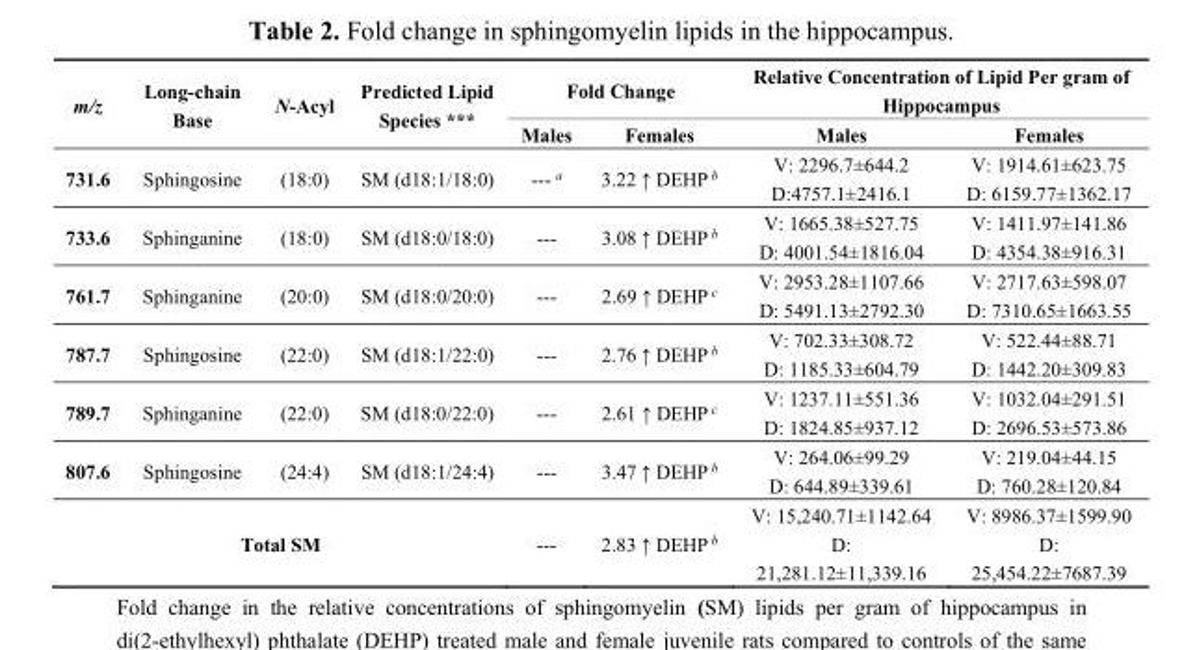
<table><thead><tr><td rowspan="2">m/z</td><td rowspan="2">Long-chain Base</td><td rowspan="2">N-Acyl</td><td rowspan="2">Predicted Lipid Species ***</td><td colspan="2">Fold Change</td><td colspan="2">Relative Concentration of Lipid Per gram of Hippocampus</td></tr><tr><td>Males</td><td>Females</td><td>Males</td><td>Females</td></tr></thead><tbody><tr><td>731.6</td><td>Sphingosine</td><td>(18:0)</td><td>SM (d18:1/18:0)</td><td>--- <sup>a</sup></td><td>3.22 ↑ DEHP <sup>b</sup></td><td>V: 2296.7±644.2 D:4757.1±2416.1</td><td>V: 1914.61±623.75 D: 6159.77±1362.17</td></tr><tr><td>733.6</td><td>Sphinganine</td><td>(18:0)</td><td>SM (d18:0/18:0)</td><td>---</td><td>3.08 ↑ DEHP <sup>b</sup></td><td>V: 1665.38±527.75 D: 4001.54±1816.04</td><td>V: 1411.97±141.86 D: 4354.38±916.31</td></tr><tr><td>761.7</td><td>Sphinganine</td><td>(20:0)</td><td>SM (d18:0/20:0)</td><td>---</td><td>2.69 ↑ DEHP <sup>c</sup></td><td>V: 2953.28±1107.66 D: 5491.13±2792.30</td><td>V: 2717.63±598.07 D: 7310.65±1663.55</td></tr><tr><td>787.7</td><td>Sphingosine</td><td>(22:0)</td><td>SM (d18:1/22:0)</td><td>---</td><td>2.76 ↑ DEHP <sup>b</sup></td><td>V: 702.33±308.72 D: 1185.33±604.79</td><td>V: 522.44±88.71 D: 1442.20±309.83</td></tr><tr><td>789.7</td><td>Sphinganine</td><td>(22:0)</td><td>SM (d18:0/22:0)</td><td>---</td><td>2.61 ↑ DEHP <sup>c</sup></td><td>V: 1237.11±551.36 D: 1824.85±937.12</td><td>V: 1032.04±291.51 D: 2696.53±573.86</td></tr><tr><td>807.6</td><td>Sphingosine</td><td>(24:4)</td><td>SM (d18:1/24:4)</td><td>---</td><td>3.47 ↑ DEHP <sup>b</sup></td><td>V: 264.06±99.29 D: 644.89±339.61</td><td>V: 219.04±44.15 D: 760.28±120.84</td></tr><tr><td colspan="4">Total SM</td><td>---</td><td>2.83 ↑ DEHP <sup>b</sup></td><td>V: 15,240.71±1142.64 D: 21,281.12±11,339.16</td><td>V: 8986.37±1599.90 D: 25,454.22±7687.39</td></tr></tbody></table>